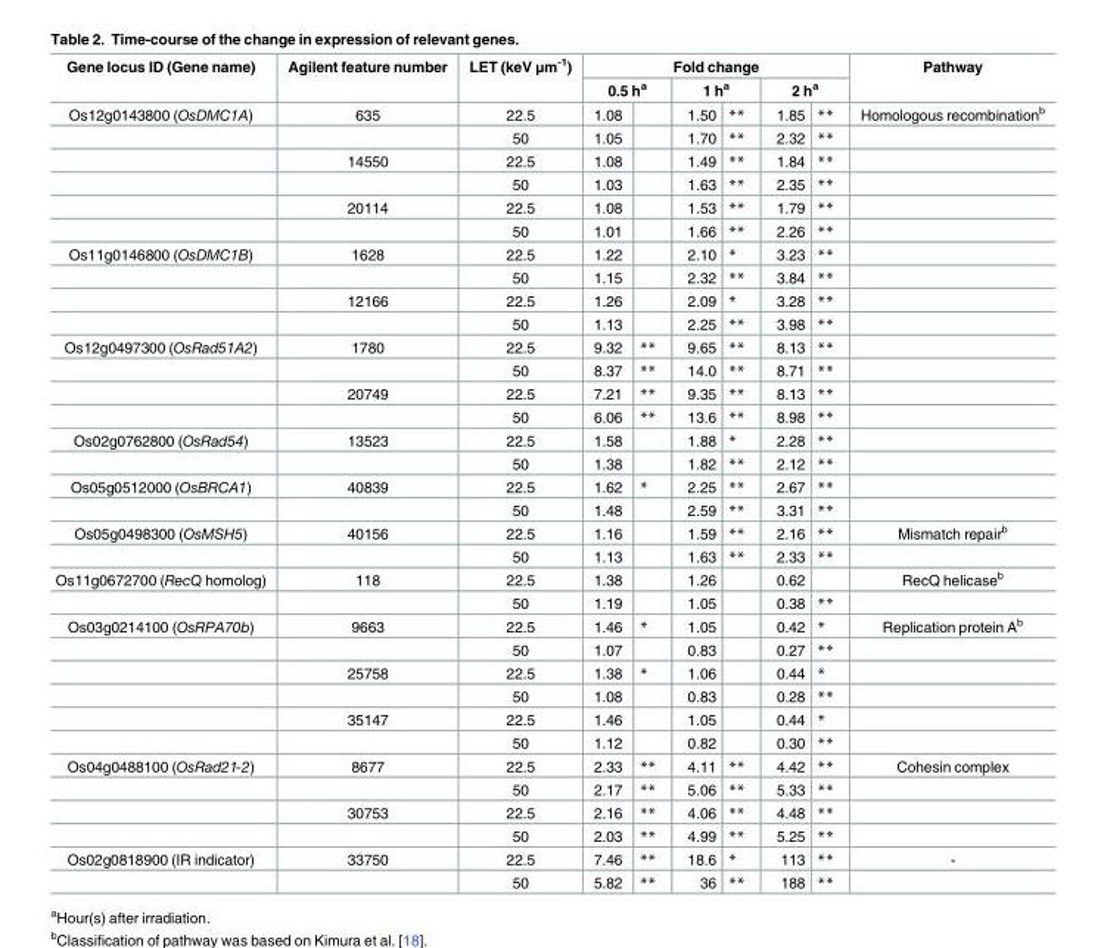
<table><thead><tr><td rowspan="3">Gene locus ID (Gene name) Os12g0143800 (OsDMC1A)</td><td rowspan="3">Agilent feature number 635</td><td rowspan="3">LET (keV μm<sup>-1</sup>) 22.5</td><td colspan="6">Fold change</td><td rowspan="3">Pathway Homologous recombination<sup>b</sup></td></tr><tr><td colspan="2">0.5 h<sup>a</sup></td><td colspan="2">1 h<sup>a</sup></td><td colspan="2">2 h<sup>a</sup></td></tr><tr><td>1.08</td><td></td><td>1.50</td><td>**</td><td>1.85</td><td>**</td></tr></thead><tbody><tr><td></td><td></td><td>50</td><td>1.05</td><td></td><td>1.70</td><td>**</td><td>2.32</td><td>**</td><td></td></tr><tr><td></td><td>14550</td><td>22.5</td><td>1.08</td><td></td><td>1.49</td><td>**</td><td>1.84</td><td>**</td><td></td></tr><tr><td></td><td></td><td>50</td><td>1.03</td><td></td><td>1.63</td><td>**</td><td>2.35</td><td>**</td><td></td></tr><tr><td></td><td>20114</td><td>22.5</td><td>1.08</td><td></td><td>1.53</td><td>**</td><td>1.79</td><td>**</td><td></td></tr><tr><td></td><td></td><td>50</td><td>1.01</td><td></td><td>1.66</td><td>**</td><td>2.26</td><td>**</td><td></td></tr><tr><td rowspan="4">Os11g0146800 (OsDMC1B)</td><td>1628</td><td>22.5</td><td>1.22</td><td></td><td>2.10</td><td>*</td><td>3.23</td><td>**</td><td></td></tr><tr><td></td><td>50</td><td>1.15</td><td></td><td>2.32</td><td>**</td><td>3.84</td><td>**</td><td></td></tr><tr><td>12166</td><td>22.5</td><td>1.26</td><td></td><td>2.09</td><td>*</td><td>3.28</td><td>**</td><td></td></tr><tr><td></td><td>50</td><td>1.13</td><td></td><td>2.25</td><td>**</td><td>3.98</td><td>**</td><td></td></tr><tr><td rowspan="4">Os12g0497300 (OsRad51A2)</td><td>1780</td><td>22.5</td><td>9.32</td><td>**</td><td>9.65</td><td>**</td><td>8.13</td><td>**</td><td></td></tr><tr><td></td><td>50</td><td>8.37</td><td>**</td><td>14.0</td><td>**</td><td>8.71</td><td>**</td><td></td></tr><tr><td>20749</td><td>22.5</td><td>7.21</td><td>**</td><td>9.35</td><td>**</td><td>8.13</td><td>**</td><td></td></tr><tr><td></td><td>50</td><td>6.06</td><td>**</td><td>13.6</td><td>**</td><td>8.98</td><td>**</td><td></td></tr><tr><td rowspan="2">Os02g0762800 (OsRad54)</td><td>13523</td><td>22.5</td><td>1.58</td><td></td><td>1.88</td><td>*</td><td>2.28</td><td>**</td><td></td></tr><tr><td></td><td>50</td><td>1.38</td><td></td><td>1.82</td><td>**</td><td>2.12</td><td>**</td><td></td></tr><tr><td rowspan="2">Os05g0512000 (OsBRCA1)</td><td>40839</td><td>22.5</td><td>1.62</td><td>*</td><td>2.25</td><td>**</td><td>2.67</td><td>**</td><td></td></tr><tr><td></td><td>50</td><td>1.48</td><td></td><td>2.59</td><td>**</td><td>3.31</td><td>**</td><td></td></tr><tr><td rowspan="2">Os05g0498300 (OsMSH5)</td><td>40156</td><td>22.5</td><td>1.16</td><td></td><td>1.59</td><td>**</td><td>2.16</td><td>**</td><td>Mismatch repair<sup>b</sup></td></tr><tr><td></td><td>50</td><td>1.13</td><td></td><td>1.63</td><td>**</td><td>2.33</td><td>**</td><td></td></tr><tr><td rowspan="2">Os11g0672700 (RecQ homolog)</td><td>118</td><td>22.5</td><td>1.38</td><td></td><td>1.26</td><td></td><td>0.62</td><td></td><td>RecQ helicase<sup>b</sup></td></tr><tr><td></td><td>50</td><td>1.19</td><td></td><td>1.05</td><td></td><td>0.38</td><td>**</td><td></td></tr><tr><td rowspan="6">Os03g0214100 (OsRPA70b)</td><td>9663</td><td>22.5</td><td>1.46</td><td>*</td><td>1.05</td><td></td><td>0.42</td><td>*</td><td>Replication protein A<sup>b</sup></td></tr><tr><td></td><td>50</td><td>1.07</td><td></td><td>0.83</td><td></td><td>0.27</td><td>**</td><td></td></tr><tr><td>25758</td><td>22.5</td><td>1.38</td><td>*</td><td>1.06</td><td></td><td>0.44</td><td>*</td><td></td></tr><tr><td></td><td>50</td><td>1.08</td><td></td><td>0.83</td><td></td><td>0.28</td><td>**</td><td></td></tr><tr><td>35147</td><td>22.5</td><td>1.46</td><td></td><td>1.05</td><td></td><td>0.44</td><td>*</td><td></td></tr><tr><td></td><td>50</td><td>1.12</td><td></td><td>0.82</td><td></td><td>0.30</td><td>**</td><td></td></tr><tr><td rowspan="4">Os04g0488100 (OsRad21-2)</td><td>8677</td><td>22.5</td><td>2.33</td><td>**</td><td>4.11</td><td>**</td><td>4.42</td><td>**</td><td>Cohesin complex</td></tr><tr><td></td><td>50</td><td>2.17</td><td>**</td><td>5.06</td><td>**</td><td>5.33</td><td>**</td><td></td></tr><tr><td>30753</td><td>22.5</td><td>2.16</td><td>**</td><td>4.06</td><td>**</td><td>4.48</td><td>**</td><td></td></tr><tr><td></td><td>50</td><td>2.03</td><td>**</td><td>4.99</td><td>**</td><td>5.25</td><td>**</td><td></td></tr><tr><td rowspan="2">Os02g0818900 (IR indicator)</td><td>33750</td><td>22.5</td><td>7.46</td><td>**</td><td>18.6</td><td>*</td><td>113</td><td>**</td><td>-</td></tr><tr><td></td><td>50</td><td>5.82</td><td>**</td><td>36</td><td>**</td><td>188</td><td>**</td><td></td></tr></tbody></table>